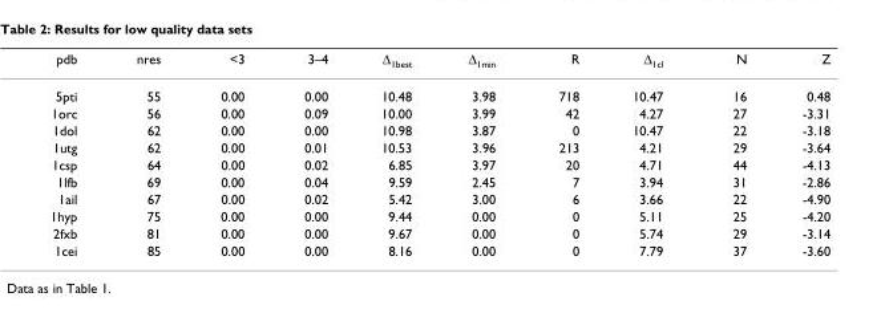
<table><thead><tr><td>pdb</td><td>nres</td><td>&lt;3</td><td>3–4</td><td>Δ1best</td><td>Δ1min</td><td>R</td><td>Δ1cl</td><td>N</td><td>Z</td></tr></thead><tbody><tr><td>5pti</td><td>55</td><td>0.00</td><td>0.00</td><td>10.48</td><td>3.98</td><td>718</td><td>10.47</td><td>16</td><td>0.48</td></tr><tr><td>1orc</td><td>56</td><td>0.00</td><td>0.09</td><td>10.00</td><td>3.99</td><td>42</td><td>4.27</td><td>27</td><td>-3.31</td></tr><tr><td>1dol</td><td>62</td><td>0.00</td><td>0.00</td><td>10.98</td><td>3.87</td><td>0</td><td>10.47</td><td>22</td><td>-3.18</td></tr><tr><td>1utg</td><td>62</td><td>0.00</td><td>0.01</td><td>10.53</td><td>3.96</td><td>213</td><td>4.21</td><td>29</td><td>-3.64</td></tr><tr><td>1csp</td><td>64</td><td>0.00</td><td>0.02</td><td>6.85</td><td>3.97</td><td>20</td><td>4.71</td><td>44</td><td>-4.13</td></tr><tr><td>1lfb</td><td>69</td><td>0.00</td><td>0.04</td><td>9.59</td><td>2.45</td><td>7</td><td>3.94</td><td>31</td><td>-2.86</td></tr><tr><td>1ail</td><td>67</td><td>0.00</td><td>0.02</td><td>5.42</td><td>3.00</td><td>6</td><td>3.66</td><td>22</td><td>-4.90</td></tr><tr><td>1hyp</td><td>75</td><td>0.00</td><td>0.00</td><td>9.44</td><td>0.00</td><td>0</td><td>5.11</td><td>25</td><td>-4.20</td></tr><tr><td>2fxb</td><td>81</td><td>0.00</td><td>0.00</td><td>9.67</td><td>0.00</td><td>0</td><td>5.74</td><td>29</td><td>-3.14</td></tr><tr><td>1cei</td><td>85</td><td>0.00</td><td>0.00</td><td>8.16</td><td>0.00</td><td>0</td><td>7.79</td><td>37</td><td>-3.60</td></tr></tbody></table>